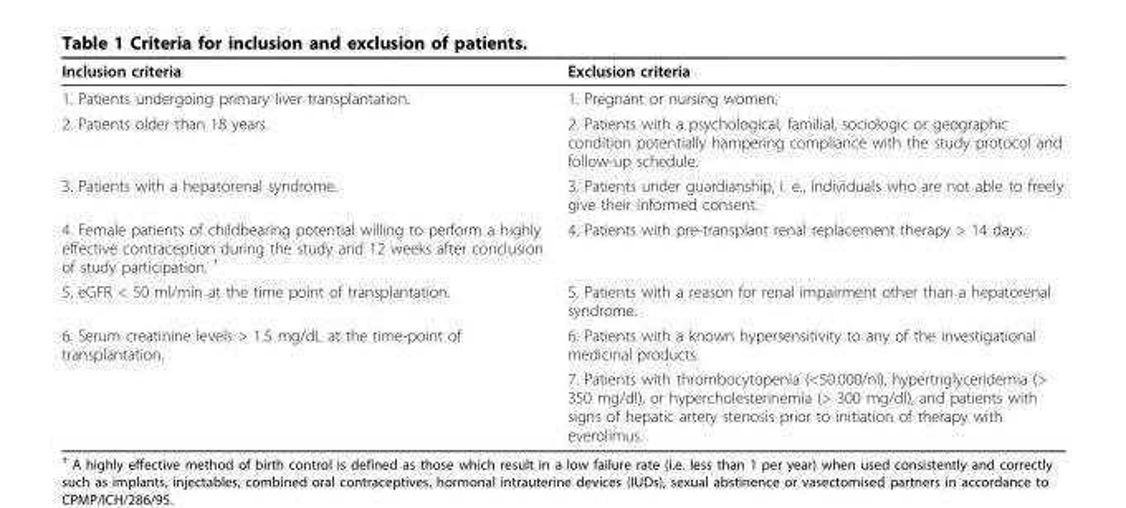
<table><thead><tr><td>Inclusion criteria</td><td>Exclusion criteria</td></tr></thead><tbody><tr><td>1. Patients undergoing primary liver transplantation.</td><td>1. Pregnant or nursing women.</td></tr><tr><td>2. Patients older than 18 years.</td><td>2. Patients with a psychological, familial, sociologic or geographic condition potentially hampering compliance with the study protocol and follow-up schedule.</td></tr><tr><td>3. Patients with a hepatorenal syndrome.</td><td>3. Patients under guardianship, i. e., individuals who are not able to freely give their informed consent.</td></tr><tr><td>4. Female patients of childbearing potential willing to perform a highly effective contraception during the study and 12 weeks after conclusion of study participation. <sup>†</sup></td><td>4. Patients with pre-transplant renal replacement therapy &gt; 14 days.</td></tr><tr><td>5. eGFR &lt; 50 ml/min at the time point of transplantation.</td><td>5. Patients with a reason for renal impairment other than a hepatorenal syndrome.</td></tr><tr><td rowspan="2">6. Serum creatinine levels &gt; 1.5 mg/dL at the time-point of transplantation.</td><td>6. Patients with a known hypersensitivity to any of the investigational medicinal products.</td></tr><tr><td>7. Patients with thrombocytopenia (&lt;50.000/nl), hypertriglyceridemia (&gt; 350 mg/dl), or hypercholesterinemia (&gt; 300 mg/dl), and patients with signs of hepatic artery stenosis prior to initiation of therapy with everolimus.</td></tr></tbody></table>